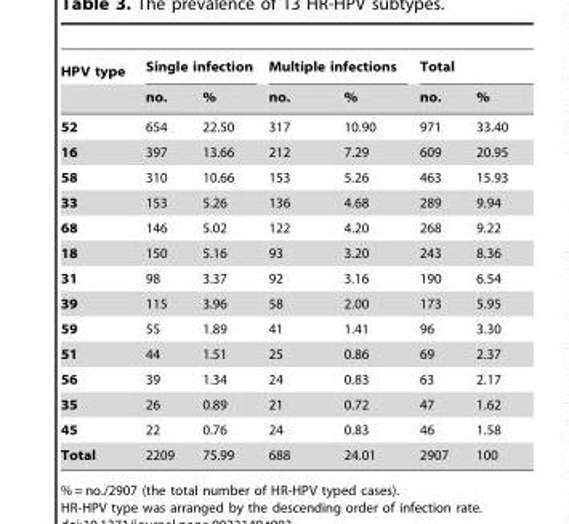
<table><thead><tr><td rowspan="2">HPV type</td><td colspan="2">Single infection</td><td colspan="2">Multiple infections</td><td colspan="2">Total</td></tr><tr><td>no.</td><td>%</td><td>no.</td><td>%</td><td>no.</td><td>%</td></tr></thead><tbody><tr><td>52</td><td>654</td><td>22.50</td><td>317</td><td>10.90</td><td>971</td><td>33.40</td></tr><tr><td>16</td><td>397</td><td>13.66</td><td>212</td><td>7.29</td><td>609</td><td>20.95</td></tr><tr><td>58</td><td>310</td><td>10.66</td><td>153</td><td>5.26</td><td>463</td><td>15.93</td></tr><tr><td>33</td><td>153</td><td>5.26</td><td>136</td><td>4.68</td><td>289</td><td>9.94</td></tr><tr><td>68</td><td>146</td><td>5.02</td><td>122</td><td>4.20</td><td>268</td><td>9.22</td></tr><tr><td>18</td><td>150</td><td>5.16</td><td>93</td><td>3.20</td><td>243</td><td>8.36</td></tr><tr><td>31</td><td>98</td><td>3.37</td><td>92</td><td>3.16</td><td>190</td><td>6.54</td></tr><tr><td>39</td><td>115</td><td>3.96</td><td>58</td><td>2.00</td><td>173</td><td>5.95</td></tr><tr><td>59</td><td>55</td><td>1.89</td><td>41</td><td>1.41</td><td>96</td><td>3.30</td></tr><tr><td>51</td><td>44</td><td>1.51</td><td>25</td><td>0.86</td><td>69</td><td>2.37</td></tr><tr><td>56</td><td>39</td><td>1.34</td><td>24</td><td>0.83</td><td>63</td><td>2.17</td></tr><tr><td>35</td><td>26</td><td>0.89</td><td>21</td><td>0.72</td><td>47</td><td>1.62</td></tr><tr><td>45</td><td>22</td><td>0.76</td><td>24</td><td>0.83</td><td>46</td><td>1.58</td></tr><tr><td>Total</td><td>2209</td><td>75.99</td><td>688</td><td>24.01</td><td>2907</td><td>100</td></tr></tbody></table>